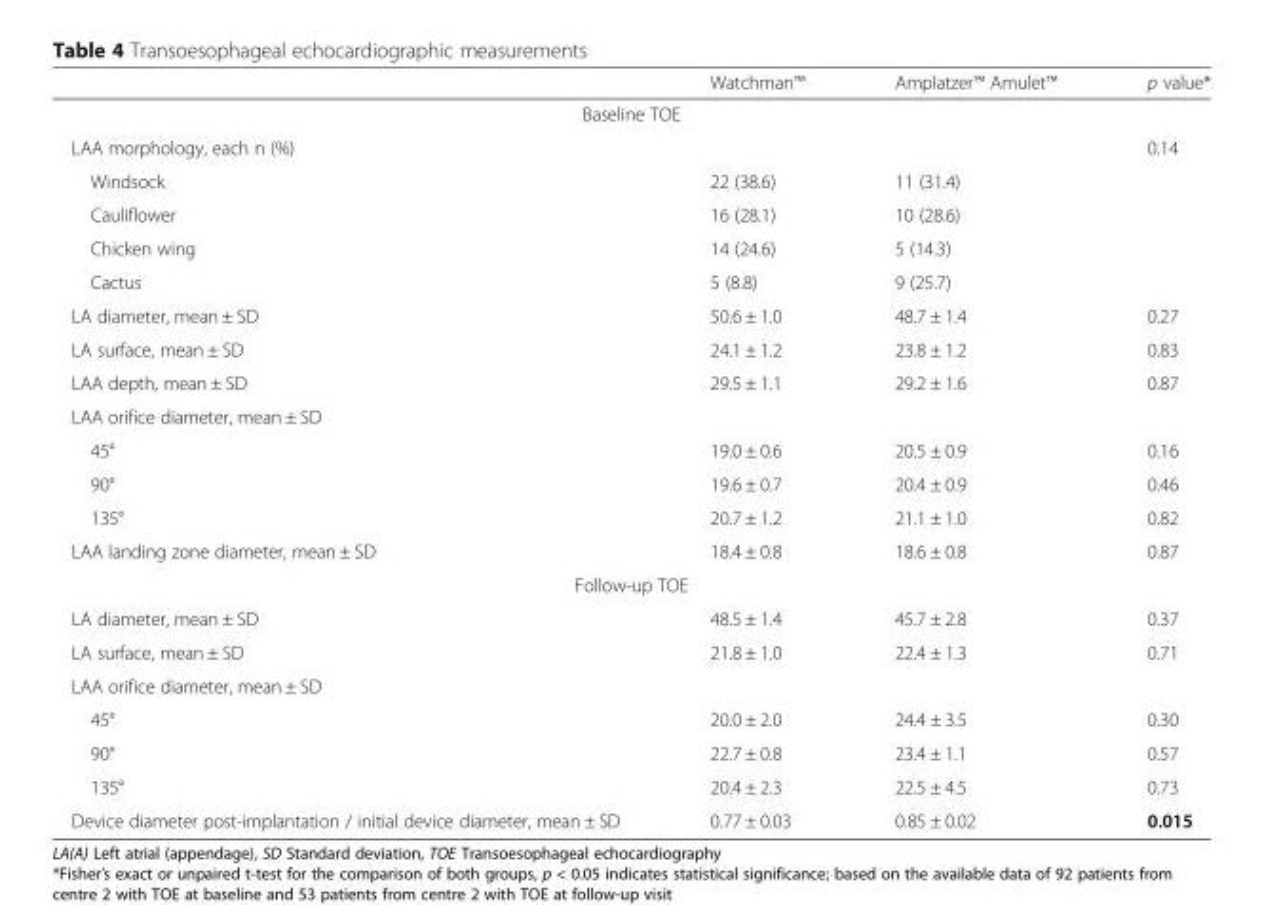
<table><thead><tr><td></td><td>Watchman™</td><td>Amplatzer™ Amulet™</td><td>p value*</td></tr></thead><tbody><tr><td colspan="4">Baseline TOE</td></tr><tr><td>LAA morphology, each n (%)</td><td></td><td></td><td>0.14</td></tr><tr><td>Windsock</td><td>22 (38.6)</td><td>11 (31.4)</td><td></td></tr><tr><td>Cauliflower</td><td>16 (28.1)</td><td>10 (28.6)</td><td></td></tr><tr><td>Chicken wing</td><td>14 (24.6)</td><td>5 (14.3)</td><td></td></tr><tr><td>Cactus</td><td>5 (8.8)</td><td>9 (25.7)</td><td></td></tr><tr><td>LA diameter, mean ± SD</td><td>50.6 ± 1.0</td><td>48.7 ± 1.4</td><td>0.27</td></tr><tr><td>LA surface, mean ± SD</td><td>24.1 ± 1.2</td><td>23.8 ± 1.2</td><td>0.83</td></tr><tr><td>LAA depth, mean ± SD</td><td>29.5 ± 1.1</td><td>29.2 ± 1.6</td><td>0.87</td></tr><tr><td colspan="4">LAA orifice diameter, mean ± SD</td></tr><tr><td>45°</td><td>19.0 ± 0.6</td><td>20.5 ± 0.9</td><td>0.16</td></tr><tr><td>90°</td><td>19.6 ± 0.7</td><td>20.4 ± 0.9</td><td>0.46</td></tr><tr><td>135°</td><td>20.7 ± 1.2</td><td>21.1 ± 1.0</td><td>0.82</td></tr><tr><td>LAA landing zone diameter, mean ± SD</td><td>18.4 ± 0.8</td><td>18.6 ± 0.8</td><td>0.87</td></tr><tr><td colspan="4">Follow-up TOE</td></tr><tr><td>LA diameter, mean ± SD</td><td>48.5 ± 1.4</td><td>45.7 ± 2.8</td><td>0.37</td></tr><tr><td>LA surface, mean ± SD</td><td>21.8 ± 1.0</td><td>22.4 ± 1.3</td><td>0.71</td></tr><tr><td colspan="4">LAA orifice diameter, mean ± SD</td></tr><tr><td>45°</td><td>20.0 ± 2.0</td><td>24.4 ± 3.5</td><td>0.30</td></tr><tr><td>90°</td><td>22.7 ± 0.8</td><td>23.4 ± 1.1</td><td>0.57</td></tr><tr><td>135°</td><td>20.4 ± 2.3</td><td>22.5 ± 4.5</td><td>0.73</td></tr><tr><td>Device diameter post-implantation / initial device diameter, mean ± SD</td><td>0.77 ± 0.03</td><td>0.85 ± 0.02</td><td>0.015</td></tr></tbody></table>